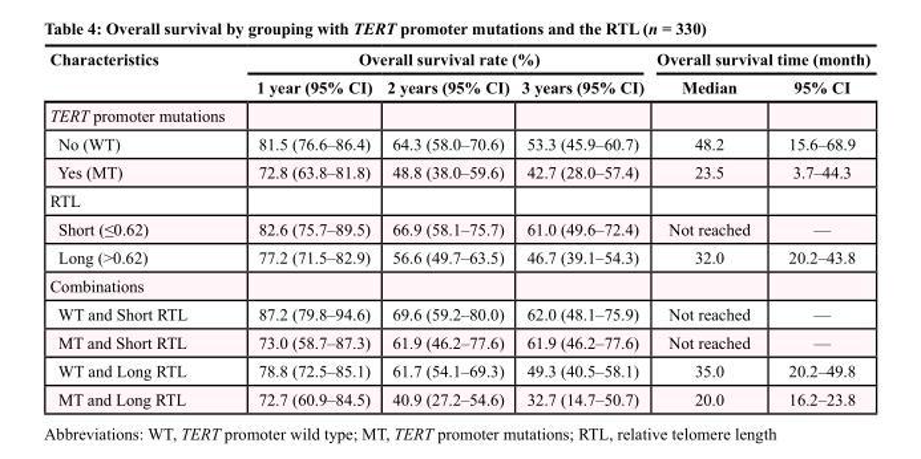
<table><thead><tr><td rowspan="2">Characteristics</td><td colspan="3">Overall survival rate (%)</td><td colspan="2">Overall survival time (month)</td></tr><tr><td>1 year (95% CI)</td><td>2 years (95% CI)</td><td>3 years (95% CI)</td><td>Median</td><td>95% CI</td></tr></thead><tbody><tr><td colspan="6">TERT promoter mutations</td></tr><tr><td>No (WT)</td><td>81.5 (76.6–86.4)</td><td>64.3 (58.0–70.6)</td><td>53.3 (45.9–60.7)</td><td>48.2</td><td>15.6–68.9</td></tr><tr><td>Yes (MT)</td><td>72.8 (63.8–81.8)</td><td>48.8 (38.0–59.6)</td><td>42.7 (28.0–57.4)</td><td>23.5</td><td>3.7–44.3</td></tr><tr><td colspan="6">RTL</td></tr><tr><td>Short (≤0.62)</td><td>82.6 (75.7–89.5)</td><td>66.9 (58.1–75.7)</td><td>61.0 (49.6–72.4)</td><td>Not reached</td><td>—</td></tr><tr><td>Long (&gt;0.62)</td><td>77.2 (71.5–82.9)</td><td>56.6 (49.7–63.5)</td><td>46.7 (39.1–54.3)</td><td>32.0</td><td>20.2–43.8</td></tr><tr><td colspan="6">Combinations</td></tr><tr><td>WT and Short RTL</td><td>87.2 (79.8–94.6)</td><td>69.6 (59.2–80.0)</td><td>62.0 (48.1–75.9)</td><td>Not reached</td><td>—</td></tr><tr><td>MT and Short RTL</td><td>73.0 (58.7–87.3)</td><td>61.9 (46.2–77.6)</td><td>61.9 (46.2–77.6)</td><td>Not reached</td><td>—</td></tr><tr><td>WT and Long RTL</td><td>78.8 (72.5–85.1)</td><td>61.7 (54.1–69.3)</td><td>49.3 (40.5–58.1)</td><td>35.0</td><td>20.2–49.8</td></tr><tr><td>MT and Long RTL</td><td>72.7 (60.9–84.5)</td><td>40.9 (27.2–54.6)</td><td>32.7 (14.7–50.7)</td><td>20.0</td><td>16.2–23.8</td></tr></tbody></table>